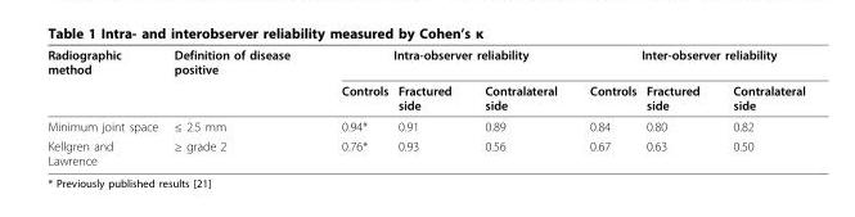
<table><thead><tr><td rowspan="2">Radiographic method</td><td rowspan="2">Definition of disease positive</td><td colspan="3">Intra-observer reliability</td><td colspan="3">Inter-observer reliability</td></tr><tr><td>Controls</td><td>Fractured side</td><td>Contralateral side</td><td>Controls</td><td>Fractured side</td><td>Contralateral side</td></tr></thead><tbody><tr><td>Minimum joint space</td><td>≤ 2.5 mm</td><td>0.94*</td><td>0.91</td><td>0.89</td><td>0.84</td><td>0.80</td><td>0.82</td></tr><tr><td>Kellgren and Lawrence</td><td>≥ grade 2</td><td>0.76*</td><td>0.93</td><td>0.56</td><td>0.67</td><td>0.63</td><td>0.50</td></tr></tbody></table>